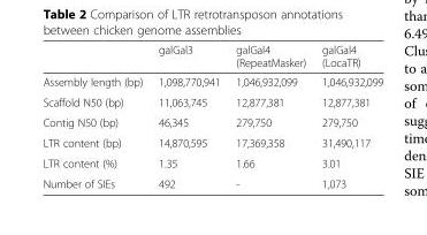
<table><thead><tr><td></td><td>galGal3</td><td>galGal4 (RepeatMasker)</td><td>galGal4 (LocaTR)</td></tr></thead><tbody><tr><td>Assembly length (bp)</td><td>1,098,770,941</td><td>1,046,932,099</td><td>1,046,932,099</td></tr><tr><td>Scaffold N50 (bp)</td><td>11,063,745</td><td>12,877,381</td><td>12,877,381</td></tr><tr><td>Contig N50 (bp)</td><td>46,345</td><td>279,750</td><td>279,750</td></tr><tr><td>LTR content (bp)</td><td>14,870,595</td><td>17,369,358</td><td>31,490,117</td></tr><tr><td>LTR content (%)</td><td>1.35</td><td>1.66</td><td>3.01</td></tr><tr><td>Number of SIEs</td><td>492</td><td>-</td><td>1,073</td></tr></tbody></table>